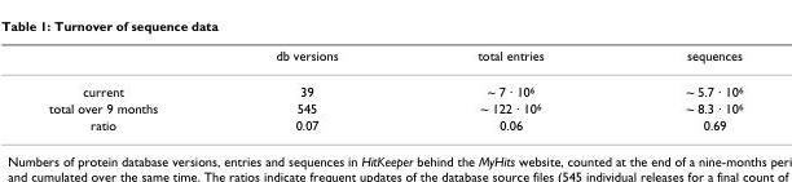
<table><thead><tr><td></td><td>db versions</td><td>total entries</td><td>sequences</td></tr></thead><tbody><tr><td>current</td><td>39</td><td>~ 7 · 10<sup>6</sup></td><td>~ 5.7 · 10<sup>6</sup></td></tr><tr><td>total over 9 months</td><td>545</td><td>~ 122 · 10<sup>6</sup></td><td>~ 8.3 · 10<sup>6</sup></td></tr><tr><td>ratio</td><td>0.07</td><td>0.06</td><td>0.69</td></tr></tbody></table>